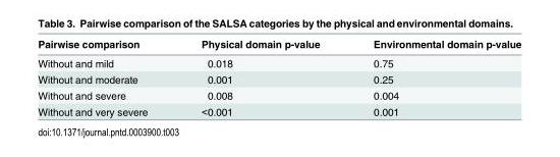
<table><thead><tr><td>Pairwise comparison</td><td>Physical domain p-value</td><td>Environmental domain p-value</td></tr></thead><tbody><tr><td>Without and mild</td><td>0.018</td><td>0.75</td></tr><tr><td>Without and moderate</td><td>0.001</td><td>0.25</td></tr><tr><td>Without and severe</td><td>0.008</td><td>0.004</td></tr><tr><td>Without and very severe</td><td>&lt;0.001</td><td>0.001</td></tr></tbody></table>